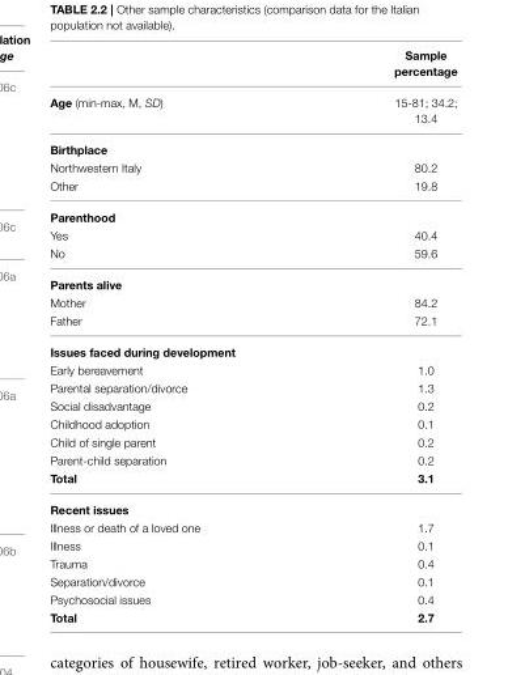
<table><thead><tr><td></td><td>Sample percentage</td></tr></thead><tbody><tr><td>Age (min-max, M, SD)</td><td>15-81; 34.2; 13.4</td></tr><tr><td colspan="2">Birthplace</td></tr><tr><td>Northwestern Italy</td><td>80.2</td></tr><tr><td>Other</td><td>19.8</td></tr><tr><td colspan="2">Parenthood</td></tr><tr><td>Yes</td><td>40.4</td></tr><tr><td>No</td><td>59.6</td></tr><tr><td colspan="2">Parents alive</td></tr><tr><td>Mother</td><td>84.2</td></tr><tr><td>Father</td><td>72.1</td></tr><tr><td colspan="2">Issues faced during development</td></tr><tr><td>Early bereavement</td><td>1.0</td></tr><tr><td>Parental separation/divorce</td><td>1.3</td></tr><tr><td>Social disadvantage</td><td>0.2</td></tr><tr><td>Childhood adoption</td><td>0.1</td></tr><tr><td>Child of single parent</td><td>0.2</td></tr><tr><td>Parent-child separation</td><td>0.2</td></tr><tr><td>Total</td><td>3.1</td></tr><tr><td colspan="2">Recent issues</td></tr><tr><td>Illness or death of a loved one</td><td>1.7</td></tr><tr><td>Illness</td><td>0.1</td></tr><tr><td>Trauma</td><td>0.4</td></tr><tr><td>Separation/divorce</td><td>0.1</td></tr><tr><td>Psychosocial issues</td><td>0.4</td></tr><tr><td>Total</td><td>2.7</td></tr></tbody></table>